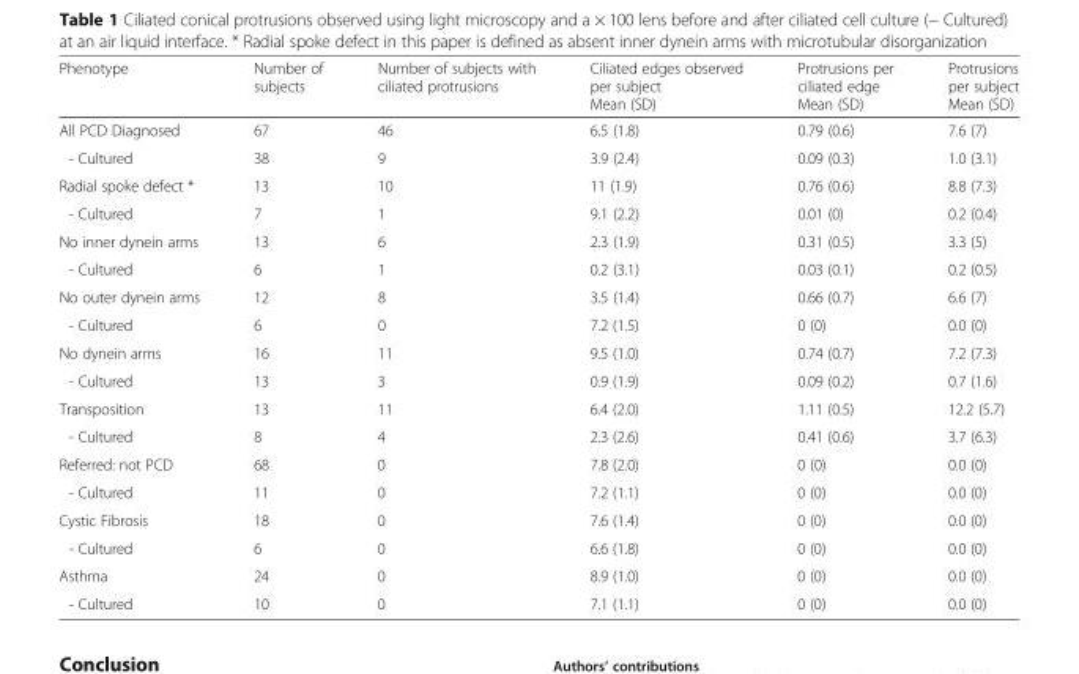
<table><thead><tr><td>Phenotype</td><td>Number of subjects</td><td>Number of subjects with ciliated protrusions</td><td>Ciliated edges observed per subject Mean (SD)</td><td>Protrusions per ciliated edge Mean (SD)</td><td>Protrusions per subject Mean (SD)</td></tr></thead><tbody><tr><td>All PCD Diagnosed</td><td>67</td><td>46</td><td>6.5 (1.8)</td><td>0.79 (0.6)</td><td>7.6 (7)</td></tr><tr><td>- Cultured</td><td>38</td><td>9</td><td>3.9 (2.4)</td><td>0.09 (0.3)</td><td>1.0 (3.1)</td></tr><tr><td>Radial spoke defect *</td><td>13</td><td>10</td><td>11 (1.9)</td><td>0.76 (0.6)</td><td>8.8 (7.3)</td></tr><tr><td>- Cultured</td><td>7</td><td>1</td><td>9.1 (2.2)</td><td>0.01 (0)</td><td>0.2 (0.4)</td></tr><tr><td>No inner dynein arms</td><td>13</td><td>6</td><td>2.3 (1.9)</td><td>0.31 (0.5)</td><td>3.3 (5)</td></tr><tr><td>- Cultured</td><td>6</td><td>1</td><td>0.2 (3.1)</td><td>0.03 (0.1)</td><td>0.2 (0.5)</td></tr><tr><td>No outer dynein arms</td><td>12</td><td>8</td><td>3.5 (1.4)</td><td>0.66 (0.7)</td><td>6.6 (7)</td></tr><tr><td>- Cultured</td><td>6</td><td>0</td><td>7.2 (1.5)</td><td>0 (0)</td><td>0.0 (0)</td></tr><tr><td>No dynein arms</td><td>16</td><td>11</td><td>9.5 (1.0)</td><td>0.74 (0.7)</td><td>7.2 (7.3)</td></tr><tr><td>- Cultured</td><td>13</td><td>3</td><td>0.9 (1.9)</td><td>0.09 (0.2)</td><td>0.7 (1.6)</td></tr><tr><td>Transposition</td><td>13</td><td>11</td><td>6.4 (2.0)</td><td>1.11 (0.5)</td><td>12.2 (5.7)</td></tr><tr><td>- Cultured</td><td>8</td><td>4</td><td>2.3 (2.6)</td><td>0.41 (0.6)</td><td>3.7 (6.3)</td></tr><tr><td>Referred: not PCD</td><td>68</td><td>0</td><td>7.8 (2.0)</td><td>0 (0)</td><td>0.0 (0)</td></tr><tr><td>- Cultured</td><td>11</td><td>0</td><td>7.2 (1.1)</td><td>0 (0)</td><td>0.0 (0)</td></tr><tr><td>Cystic Fibrosis</td><td>18</td><td>0</td><td>7.6 (1.4)</td><td>0 (0)</td><td>0.0 (0)</td></tr><tr><td>- Cultured</td><td>6</td><td>0</td><td>6.6 (1.8)</td><td>0 (0)</td><td>0.0 (0)</td></tr><tr><td>Asthma</td><td>24</td><td>0</td><td>8.9 (1.0)</td><td>0 (0)</td><td>0.0 (0)</td></tr><tr><td>- Cultured</td><td>10</td><td>0</td><td>7.1 (1.1)</td><td>0 (0)</td><td>0.0 (0)</td></tr></tbody></table>